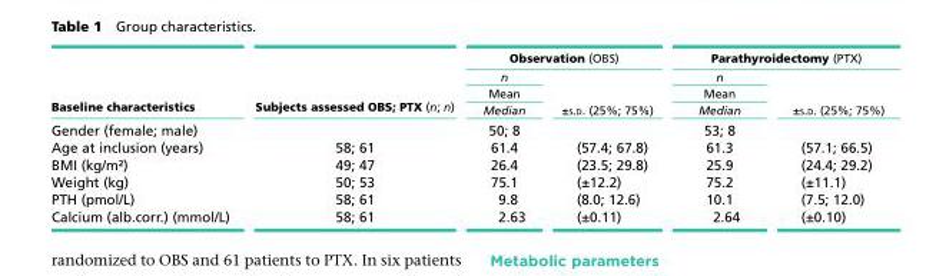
<table><thead><tr><td rowspan="2">Baseline characteristics</td><td rowspan="2">Subjects assessed OBS; PTX (n; n)</td><td colspan="2">Observation (OBS)</td><td colspan="2">Parathyroidectomy (PTX)</td></tr><tr><td>n Mean Median</td><td>±s.d. (25%; 75%)</td><td>n Mean Median</td><td>±s.d. (25%; 75%)</td></tr></thead><tbody><tr><td>Gender (female; male)</td><td></td><td>50; 8</td><td></td><td>53; 8</td><td></td></tr><tr><td>Age at inclusion (years)</td><td>58; 61</td><td>61.4</td><td>(57.4; 67.8)</td><td>61.3</td><td>(57.1; 66.5)</td></tr><tr><td>BMI (kg/m²)</td><td>49; 47</td><td>26.4</td><td>(23.5; 29.8)</td><td>25.9</td><td>(24.4; 29.2)</td></tr><tr><td>Weight (kg)</td><td>50; 53</td><td>75.1</td><td>(±12.2)</td><td>75.2</td><td>(±11.1)</td></tr><tr><td>PTH (pmol/L)</td><td>58; 61</td><td>9.8</td><td>(8.0; 12.6)</td><td>10.1</td><td>(7.5; 12.0)</td></tr><tr><td>Calcium (alb.corr.) (mmol/L)</td><td>58; 61</td><td>2.63</td><td>(±0.11)</td><td>2.64</td><td>(±0.10)</td></tr></tbody></table>